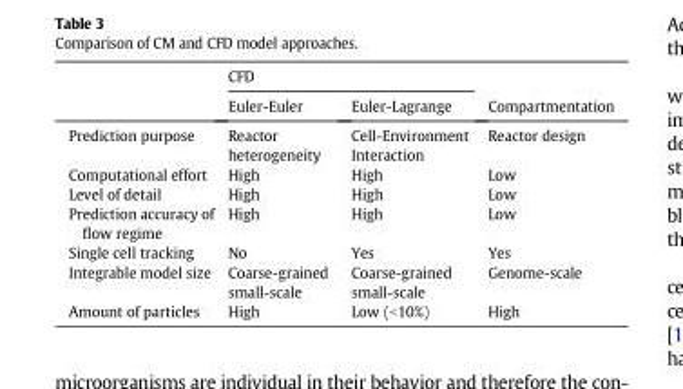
<table><thead><tr><td rowspan="2"></td><td colspan="2">CFD</td><td rowspan="2">Compartmentation</td></tr><tr><td>Euler-Euler</td><td>Euler-Lagrange</td></tr></thead><tbody><tr><td>Prediction purpose</td><td>Reactor heterogeneity</td><td>Cell-Environment Interaction</td><td>Reactor design</td></tr><tr><td>Computational effort</td><td>High</td><td>High</td><td>Low</td></tr><tr><td>Level of detail</td><td>High</td><td>High</td><td>Low</td></tr><tr><td>Prediction accuracy of flow regime</td><td>High</td><td>High</td><td>Low</td></tr><tr><td>Single cell tracking</td><td>No</td><td>Yes</td><td>Yes</td></tr><tr><td>Integrable model size</td><td>Coarse-grained small-scale</td><td>Coarse-grained small-scale</td><td>Genome-scale</td></tr><tr><td>Amount of particles</td><td>High</td><td>Low (&lt;10%)</td><td>High</td></tr></tbody></table>